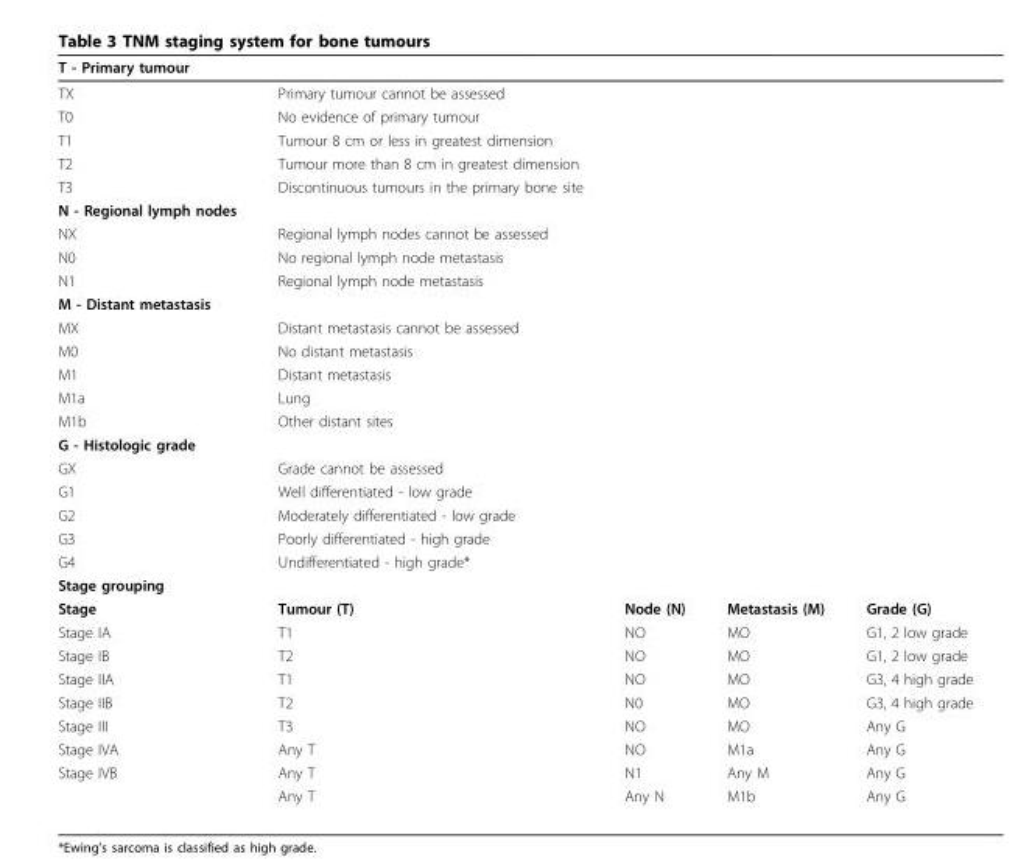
<table><thead><tr><td>T - Primary tumour</td><td></td><td></td><td></td><td></td></tr></thead><tbody><tr><td>TX</td><td>Primary tumour cannot be assessed</td><td></td><td></td><td></td></tr><tr><td>T0</td><td>No evidence of primary tumour</td><td></td><td></td><td></td></tr><tr><td>T1</td><td>Tumour 8 cm or less in greatest dimension</td><td></td><td></td><td></td></tr><tr><td>T2</td><td>Tumour more than 8 cm in greatest dimension</td><td></td><td></td><td></td></tr><tr><td>T3</td><td>Discontinuous tumours in the primary bone site</td><td></td><td></td><td></td></tr><tr><td colspan="5">N - Regional lymph nodes</td></tr><tr><td>NX</td><td>Regional lymph nodes cannot be assessed</td><td></td><td></td><td></td></tr><tr><td>N0</td><td>No regional lymph node metastasis</td><td></td><td></td><td></td></tr><tr><td>N1</td><td>Regional lymph node metastasis</td><td></td><td></td><td></td></tr><tr><td colspan="5">M - Distant metastasis</td></tr><tr><td>MX</td><td>Distant metastasis cannot be assessed</td><td></td><td></td><td></td></tr><tr><td>M0</td><td>No distant metastasis</td><td></td><td></td><td></td></tr><tr><td>M1</td><td>Distant metastasis</td><td></td><td></td><td></td></tr><tr><td>M1a</td><td>Lung</td><td></td><td></td><td></td></tr><tr><td>M1b</td><td>Other distant sites</td><td></td><td></td><td></td></tr><tr><td colspan="5">G - Histologic grade</td></tr><tr><td>GX</td><td>Grade cannot be assessed</td><td></td><td></td><td></td></tr><tr><td>G1</td><td>Well differentiated - low grade</td><td></td><td></td><td></td></tr><tr><td>G2</td><td>Moderately differentiated - low grade</td><td></td><td></td><td></td></tr><tr><td>G3</td><td>Poorly differentiated - high grade</td><td></td><td></td><td></td></tr><tr><td>G4</td><td>Undifferentiated - high grade*</td><td></td><td></td><td></td></tr><tr><td colspan="5">Stage grouping</td></tr><tr><td>Stage</td><td>Tumour (T)</td><td>Node (N)</td><td>Metastasis (M)</td><td>Grade (G)</td></tr><tr><td>Stage IA</td><td>T1</td><td>NO</td><td>MO</td><td>G1, 2 low grade</td></tr><tr><td>Stage IB</td><td>T2</td><td>NO</td><td>MO</td><td>G1, 2 low grade</td></tr><tr><td>Stage IIA</td><td>T1</td><td>NO</td><td>MO</td><td>G3, 4 high grade</td></tr><tr><td>Stage IIB</td><td>T2</td><td>N0</td><td>MO</td><td>G3, 4 high grade</td></tr><tr><td>Stage III</td><td>T3</td><td>NO</td><td>MO</td><td>Any G</td></tr><tr><td>Stage IVA</td><td>Any T</td><td>NO</td><td>M1a</td><td>Any G</td></tr><tr><td rowspan="2">Stage IVB</td><td>Any T</td><td>N1</td><td>Any M</td><td>Any G</td></tr><tr><td>Any T</td><td>Any N</td><td>M1b</td><td>Any G</td></tr></tbody></table>